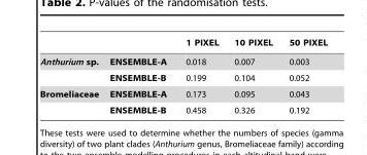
<table><thead><tr><td></td><td></td><td>1 PIXEL</td><td>10 PIXEL</td><td>50 PIXEL</td></tr></thead><tbody><tr><td rowspan="2">Anthurium sp.</td><td>ENSEMBLE-A</td><td>0.018</td><td>0.007</td><td>0.003</td></tr><tr><td>ENSEMBLE-B</td><td>0.199</td><td>0.104</td><td>0.052</td></tr><tr><td rowspan="2">Bromeliaceae</td><td>ENSEMBLE-A</td><td>0.173</td><td>0.095</td><td>0.043</td></tr><tr><td>ENSEMBLE-B</td><td>0.458</td><td>0.326</td><td>0.192</td></tr></tbody></table>